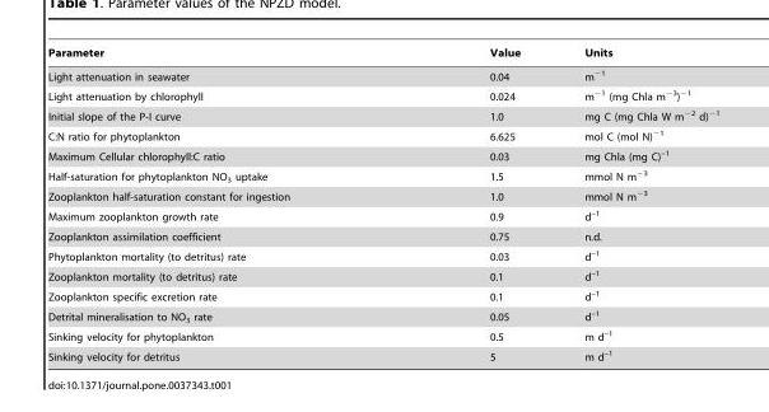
<table><thead><tr><td>Parameter</td><td>Value</td><td>Units</td></tr></thead><tbody><tr><td>Light attenuation in seawater</td><td>0.04</td><td>m<sup>−1</sup></td></tr><tr><td>Light attenuation by chlorophyll</td><td>0.024</td><td>m<sup>−1</sup> (mg Chla m<sup>−3</sup>)<sup>−1</sup></td></tr><tr><td>Initial slope of the P-I curve</td><td>1.0</td><td>mg C (mg Chla W m<sup>−2</sup> d)<sup>−1</sup></td></tr><tr><td>C:N ratio for phytoplankton</td><td>6.625</td><td>mol C (mol N)<sup>−1</sup></td></tr><tr><td>Maximum Cellular chlorophyll:C ratio</td><td>0.03</td><td>mg Chla (mg C)<sup>–1</sup></td></tr><tr><td>Half-saturation for phytoplankton NO<sub>3</sub> uptake</td><td>1.5</td><td>mmol N m<sup>−3</sup></td></tr><tr><td>Zooplankton half-saturation constant for ingestion</td><td>1.0</td><td>mmol N m<sup>−3</sup></td></tr><tr><td>Maximum zooplankton growth rate</td><td>0.9</td><td>d<sup>–1</sup></td></tr><tr><td>Zooplankton assimilation coefficient</td><td>0.75</td><td>n.d.</td></tr><tr><td>Phytoplankton mortality (to detritus) rate</td><td>0.03</td><td>d<sup>–1</sup></td></tr><tr><td>Zooplankton mortality (to detritus) rate</td><td>0.1</td><td>d<sup>–1</sup></td></tr><tr><td>Zooplankton specific excretion rate</td><td>0.1</td><td>d<sup>–1</sup></td></tr><tr><td>Detrital mineralisation to NO<sub>3</sub> rate</td><td>0.05</td><td>d<sup>–1</sup></td></tr><tr><td>Sinking velocity for phytoplankton</td><td>0.5</td><td>m d<sup>–1</sup></td></tr><tr><td>Sinking velocity for detritus</td><td>5</td><td>m d<sup>–1</sup></td></tr></tbody></table>